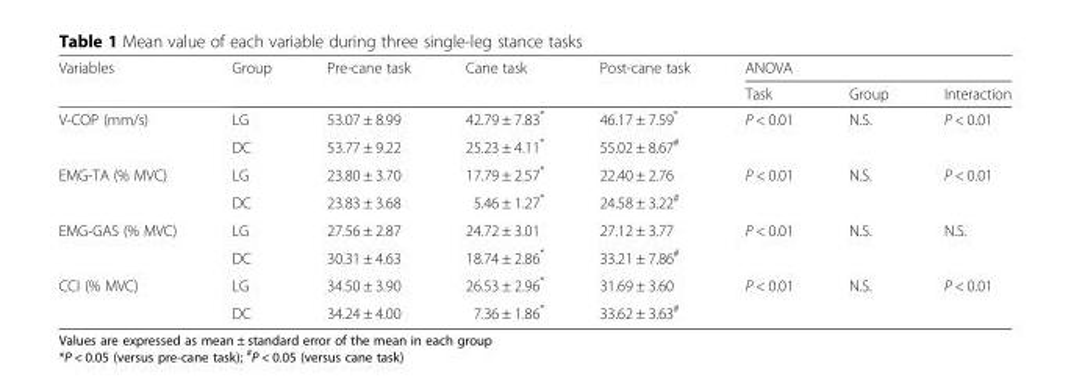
<table><thead><tr><td rowspan="2">Variables</td><td rowspan="2">Group</td><td rowspan="2">Pre-cane task</td><td rowspan="2">Cane task</td><td rowspan="2">Post-cane task</td><td colspan="3">ANOVA</td></tr><tr><td>Task</td><td>Group</td><td>Interaction</td></tr></thead><tbody><tr><td rowspan="2">V-COP (mm/s)</td><td>LG</td><td>53.07 ± 8.99</td><td>42.79 ± 7.83*</td><td>46.17 ± 7.59*</td><td rowspan="2">P &lt; 0.01</td><td rowspan="2">N.S.</td><td rowspan="2">P &lt; 0.01</td></tr><tr><td>DC</td><td>53.77 ± 9.22</td><td>25.23 ± 4.11*</td><td>55.02 ± 8.67<sup>#</sup></td></tr><tr><td rowspan="2">EMG-TA (% MVC)</td><td>LG</td><td>23.80 ± 3.70</td><td>17.79 ± 2.57*</td><td>22.40 ± 2.76</td><td rowspan="2">P &lt; 0.01</td><td rowspan="2">N.S.</td><td rowspan="2">P &lt; 0.01</td></tr><tr><td>DC</td><td>23.83 ± 3.68</td><td>5.46 ± 1.27*</td><td>24.58 ± 3.22<sup>#</sup></td></tr><tr><td rowspan="2">EMG-GAS (% MVC)</td><td>LG</td><td>27.56 ± 2.87</td><td>24.72 ± 3.01</td><td>27.12 ± 3.77</td><td rowspan="2">P &lt; 0.01</td><td rowspan="2">N.S.</td><td rowspan="2">N.S.</td></tr><tr><td>DC</td><td>30.31 ± 4.63</td><td>18.74 ± 2.86*</td><td>33.21 ± 7.86<sup>#</sup></td></tr><tr><td rowspan="2">CCI (% MVC)</td><td>LG</td><td>34.50 ± 3.90</td><td>26.53 ± 2.96*</td><td>31.69 ± 3.60</td><td rowspan="2">P &lt; 0.01</td><td rowspan="2">N.S.</td><td rowspan="2">P &lt; 0.01</td></tr><tr><td>DC</td><td>34.24 ± 4.00</td><td>7.36 ± 1.86*</td><td>33.62 ± 3.63<sup>#</sup></td></tr></tbody></table>